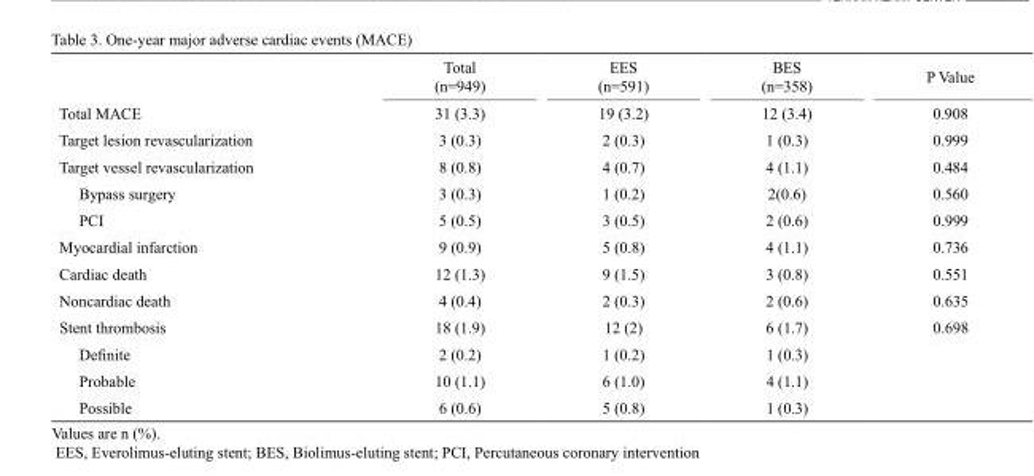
<table><thead><tr><td></td><td>Total (n=949)</td><td>EES (n=591)</td><td>BES (n=358)</td><td>P Value</td></tr></thead><tbody><tr><td>Total MACE</td><td>31 (3.3)</td><td>19 (3.2)</td><td>12 (3.4)</td><td>0.908</td></tr><tr><td>Target lesion revascularization</td><td>3 (0.3)</td><td>2 (0.3)</td><td>1 (0.3)</td><td>0.999</td></tr><tr><td>Target vessel revascularization</td><td>8 (0.8)</td><td>4 (0.7)</td><td>4 (1.1)</td><td>0.484</td></tr><tr><td>Bypass surgery</td><td>3 (0.3)</td><td>1 (0.2)</td><td>2(0.6)</td><td>0.560</td></tr><tr><td>PCI</td><td>5 (0.5)</td><td>3 (0.5)</td><td>2 (0.6)</td><td>0.999</td></tr><tr><td>Myocardial infarction</td><td>9 (0.9)</td><td>5 (0.8)</td><td>4 (1.1)</td><td>0.736</td></tr><tr><td>Cardiac death</td><td>12 (1.3)</td><td>9 (1.5)</td><td>3 (0.8)</td><td>0.551</td></tr><tr><td>Noncardiac death</td><td>4 (0.4)</td><td>2 (0.3)</td><td>2 (0.6)</td><td>0.635</td></tr><tr><td>Stent thrombosis</td><td>18 (1.9)</td><td>12 (2)</td><td>6 (1.7)</td><td>0.698</td></tr><tr><td>Definite</td><td>2 (0.2)</td><td>1 (0.2)</td><td>1 (0.3)</td><td></td></tr><tr><td>Probable</td><td>10 (1.1)</td><td>6 (1.0)</td><td>4 (1.1)</td><td></td></tr><tr><td>Possible</td><td>6 (0.6)</td><td>5 (0.8)</td><td>1 (0.3)</td><td></td></tr></tbody></table>